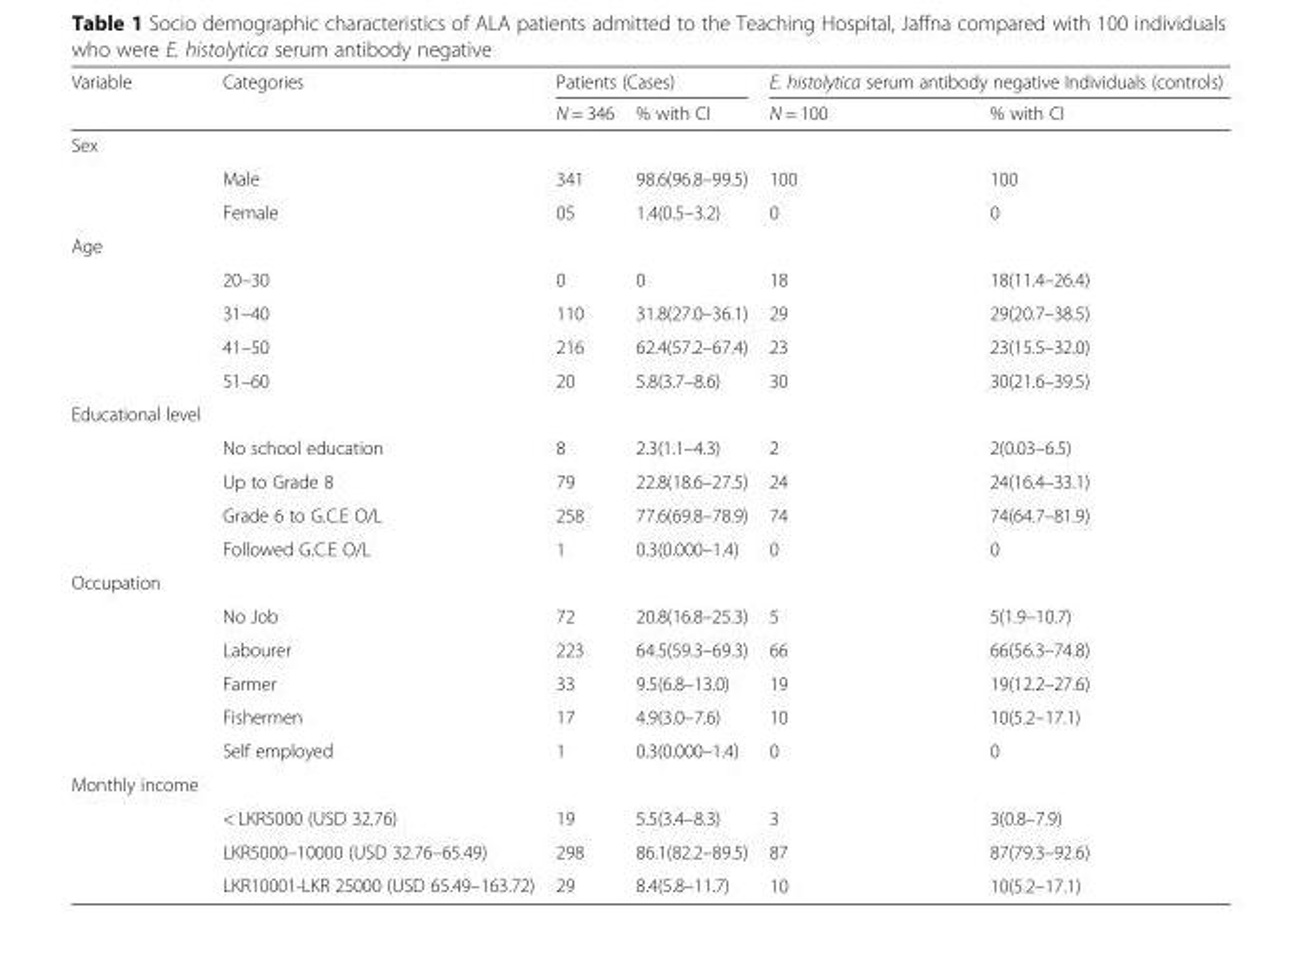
<table><thead><tr><td rowspan="2">Variable</td><td rowspan="2">Categories</td><td colspan="2">Patients (Cases)</td><td colspan="2">E. histolytica serum antibody negative Individuals (controls)</td></tr><tr><td>N = 346</td><td>% with CI</td><td>N = 100</td><td>% with CI</td></tr></thead><tbody><tr><td colspan="6">Sex</td></tr><tr><td rowspan="2"></td><td>Male</td><td>341</td><td>98.6(96.8–99.5)</td><td>100</td><td>100</td></tr><tr><td>Female</td><td>05</td><td>1.4(0.5–3.2)</td><td>0</td><td>0</td></tr><tr><td colspan="6">Age</td></tr><tr><td rowspan="4"></td><td>20–30</td><td>0</td><td>0</td><td>18</td><td>18(11.4–26.4)</td></tr><tr><td>31–40</td><td>110</td><td>31.8(27.0–36.1)</td><td>29</td><td>29(20.7–38.5)</td></tr><tr><td>41–50</td><td>216</td><td>62.4(57.2–67.4)</td><td>23</td><td>23(15.5–32.0)</td></tr><tr><td>51–60</td><td>20</td><td>5.8(3.7–8.6)</td><td>30</td><td>30(21.6–39.5)</td></tr><tr><td colspan="6">Educational level</td></tr><tr><td rowspan="4"></td><td>No school education</td><td>8</td><td>2.3(1.1–4.3)</td><td>2</td><td>2(0.03–6.5)</td></tr><tr><td>Up to Grade 8</td><td>79</td><td>22.8(18.6–27.5)</td><td>24</td><td>24(16.4–33.1)</td></tr><tr><td>Grade 6 to G.C.E O/L</td><td>258</td><td>77.6(69.8–78.9)</td><td>74</td><td>74(64.7–81.9)</td></tr><tr><td>Followed G.C.E O/L</td><td>1</td><td>0.3(0.000–1.4)</td><td>0</td><td>0</td></tr><tr><td colspan="6">Occupation</td></tr><tr><td rowspan="5"></td><td>No Job</td><td>72</td><td>20.8(16.8–25.3)</td><td>5</td><td>5(1.9–10.7)</td></tr><tr><td>Labourer</td><td>223</td><td>64.5(59.3–69.3)</td><td>66</td><td>66(56.3–74.8)</td></tr><tr><td>Farmer</td><td>33</td><td>9.5(6.8–13.0)</td><td>19</td><td>19(12.2–27.6)</td></tr><tr><td>Fishermen</td><td>17</td><td>4.9(3.0–7.6)</td><td>10</td><td>10(5.2–17.1)</td></tr><tr><td>Self employed</td><td>1</td><td>0.3(0.000–1.4)</td><td>0</td><td>0</td></tr><tr><td colspan="6">Monthly income</td></tr><tr><td rowspan="3"></td><td>&lt; LKR5000 (USD 32.76)</td><td>19</td><td>5.5(3.4–8.3)</td><td>3</td><td>3(0.8–7.9)</td></tr><tr><td>LKR5000–10000 (USD 32.76–65.49)</td><td>298</td><td>86.1(82.2–89.5)</td><td>87</td><td>87(79.3–92.6)</td></tr><tr><td>LKR10001-LKR 25000 (USD 65.49–163.72)</td><td>29</td><td>8.4(5.8–11.7)</td><td>10</td><td>10(5.2–17.1)</td></tr></tbody></table>